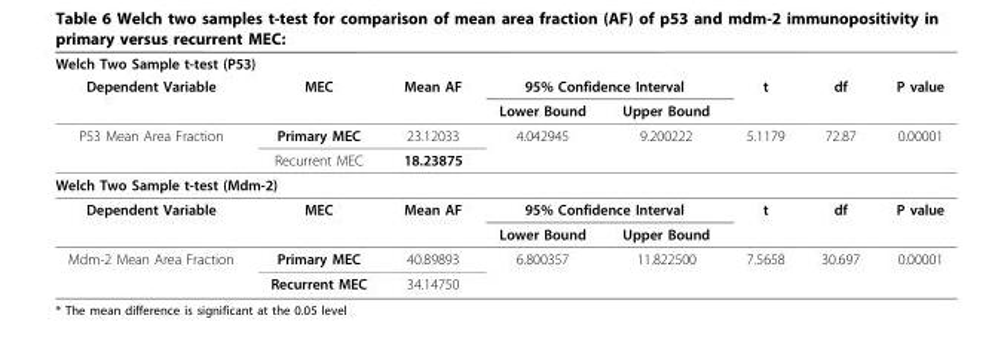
<table><thead><tr><td colspan="8">Welch Two Sample t-test (P53)</td></tr><tr><td rowspan="2">Dependent Variable</td><td rowspan="2">MEC</td><td rowspan="2">Mean AF</td><td colspan="2">95% Confidence Interval</td><td rowspan="2">t</td><td rowspan="2">df</td><td rowspan="2">P value</td></tr><tr><td>Lower Bound</td><td>Upper Bound</td></tr></thead><tbody><tr><td rowspan="2">P53 Mean Area Fraction</td><td>Primary MEC</td><td>23.12033</td><td>4.042945</td><td>9.200222</td><td>5.1179</td><td>72.87</td><td>0.00001</td></tr><tr><td>Recurrent MEC</td><td>18.23875</td><td></td><td></td><td></td><td></td><td></td></tr><tr><td colspan="8">Welch Two Sample t-test (Mdm-2)</td></tr><tr><td rowspan="2">Dependent Variable</td><td>MEC</td><td>Mean AF</td><td colspan="2">95% Confidence Interval</td><td>t</td><td>df</td><td>P value</td></tr><tr><td></td><td></td><td>Lower Bound</td><td>Upper Bound</td><td></td><td></td><td></td></tr><tr><td rowspan="2">Mdm-2 Mean Area Fraction</td><td>Primary MEC</td><td>40.89893</td><td>6.800357</td><td>11.822500</td><td>7.5658</td><td>30.697</td><td>0.00001</td></tr><tr><td>Recurrent MEC</td><td>34.14750</td><td></td><td></td><td></td><td></td><td></td></tr></tbody></table>